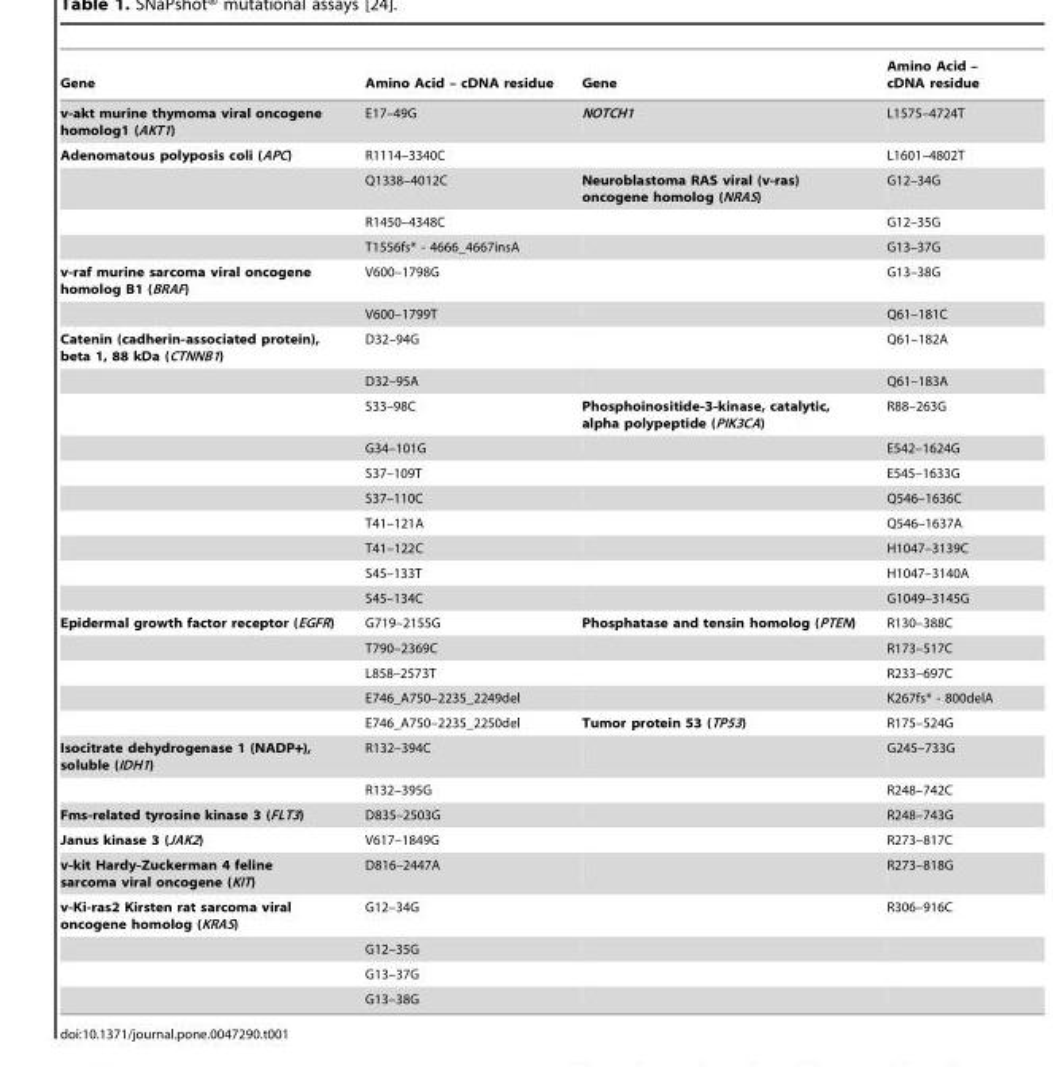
<table><thead><tr><td>Gene</td><td>Amino Acid – cDNA residue</td><td>Gene</td><td>Amino Acid – cDNA residue</td></tr></thead><tbody><tr><td>v-akt murine thymoma viral oncogene homolog1 (AKT1)</td><td>E17–49G</td><td>NOTCH1</td><td>L1575–4724T</td></tr><tr><td rowspan="4">Adenomatous polyposis coli (APC)</td><td>R1114–3340C</td><td></td><td>L1601–4802T</td></tr><tr><td>Q1338–4012C</td><td>Neuroblastoma RAS viral (v-ras) oncogene homolog (NRAS)</td><td>G12–34G</td></tr><tr><td>R1450–4348C</td><td></td><td>G12–35G</td></tr><tr><td>T1556fs* - 4666_4667insA</td><td></td><td>G13–37G</td></tr><tr><td rowspan="2">v-raf murine sarcoma viral oncogene homolog B1 (BRAF)</td><td>V600–1798G</td><td></td><td>G13–38G</td></tr><tr><td>V600–1799T</td><td></td><td>Q61–181C</td></tr><tr><td rowspan="10">Catenin (cadherin-associated protein), beta 1, 88 kDa (CTNNB1)</td><td>D32–94G</td><td></td><td>Q61–182A</td></tr><tr><td>D32–95A</td><td></td><td>Q61–183A</td></tr><tr><td>S33–98C</td><td>Phosphoinositide-3-kinase, catalytic, alpha polypeptide (PIK3CA)</td><td>R88–263G</td></tr><tr><td>G34–101G</td><td></td><td>E542–1624G</td></tr><tr><td>S37–109T</td><td></td><td>E545–1633G</td></tr><tr><td>S37–110C</td><td></td><td>Q546–1636C</td></tr><tr><td>T41–121A</td><td></td><td>Q546–1637A</td></tr><tr><td>T41–122C</td><td></td><td>H1047–3139C</td></tr><tr><td>S45–133T</td><td></td><td>H1047–3140A</td></tr><tr><td>S45–134C</td><td></td><td>G1049–3145G</td></tr><tr><td rowspan="5">Epidermal growth factor receptor (EGFR)</td><td>G719–2155G</td><td>Phosphatase and tensin homolog (PTEN)</td><td>R130–388C</td></tr><tr><td>T790–2369C</td><td></td><td>R173–517C</td></tr><tr><td>L858–2573T</td><td></td><td>R233–697C</td></tr><tr><td>E746_A750–2235_2249del</td><td></td><td>K267fs* - 800delA</td></tr><tr><td>E746_A750–2235_2250del</td><td>Tumor protein 53 (TP53)</td><td>R175–524G</td></tr><tr><td rowspan="2">Isocitrate dehydrogenase 1 (NADP+), soluble (IDH1)</td><td>R132–394C</td><td></td><td>G245–733G</td></tr><tr><td>R132–395G</td><td></td><td>R248–742C</td></tr><tr><td>Fms-related tyrosine kinase 3 (FLT3)</td><td>D835–2503G</td><td></td><td>R248–743G</td></tr><tr><td>Janus kinase 3 (JAK2)</td><td>V617–1849G</td><td></td><td>R273–817C</td></tr><tr><td>v-kit Hardy-Zuckerman 4 feline sarcoma viral oncogene (KIT)</td><td>D816–2447A</td><td></td><td>R273–818G</td></tr><tr><td rowspan="4">v-Ki-ras2 Kirsten rat sarcoma viral oncogene homolog (KRAS)</td><td>G12–34G</td><td></td><td>R306–916C</td></tr><tr><td>G12–35G</td><td></td><td></td></tr><tr><td>G13–37G</td><td></td><td></td></tr><tr><td>G13–38G</td><td></td><td></td></tr></tbody></table>